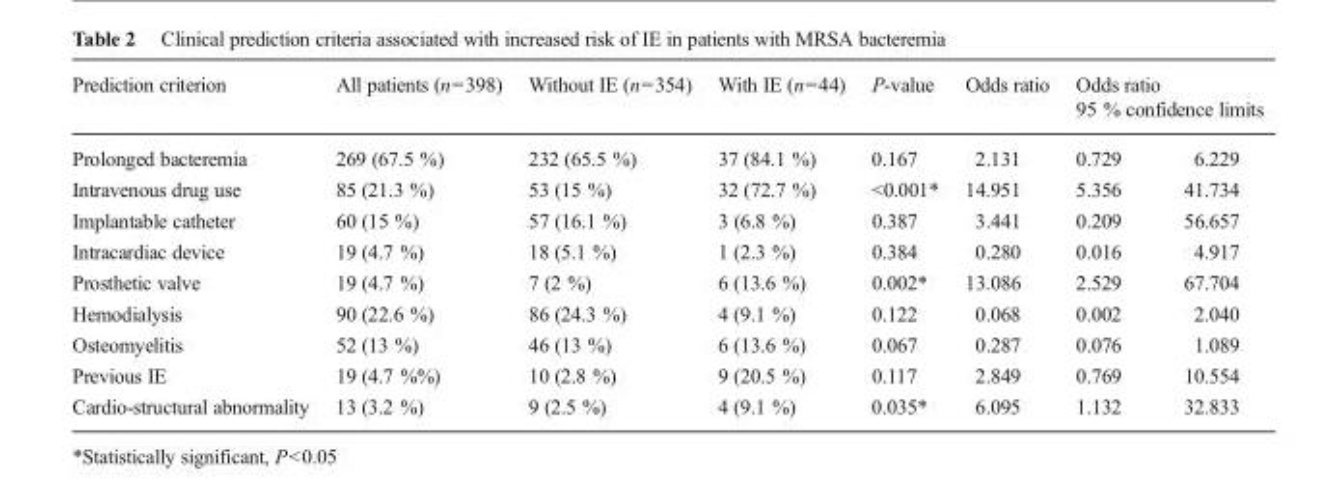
<table><thead><tr><td rowspan="2">Prediction criterion Prolonged bacteremia</td><td rowspan="2">All patients (n=398) 269 (67.5 %)</td><td rowspan="2">Without IE (n=354) 232 (65.5 %)</td><td rowspan="2">With IE (n=44) 37 (84.1 %)</td><td rowspan="2">P-value 0.167</td><td rowspan="2">Odds ratio 2.131</td><td colspan="2">Odds ratio 95 % confidence limits</td></tr><tr><td>0.729</td><td>6.229</td></tr></thead><tbody><tr><td>Intravenous drug use</td><td>85 (21.3 %)</td><td>53 (15 %)</td><td>32 (72.7 %)</td><td>&lt;0.001*</td><td>14.951</td><td>5.356</td><td>41.734</td></tr><tr><td>Implantable catheter</td><td>60 (15 %)</td><td>57 (16.1 %)</td><td>3 (6.8 %)</td><td>0.387</td><td>3.441</td><td>0.209</td><td>56.657</td></tr><tr><td>Intracardiac device</td><td>19 (4.7 %)</td><td>18 (5.1 %)</td><td>1 (2.3 %)</td><td>0.384</td><td>0.280</td><td>0.016</td><td>4.917</td></tr><tr><td>Prosthetic valve</td><td>19 (4.7 %)</td><td>7 (2 %)</td><td>6 (13.6 %)</td><td>0.002*</td><td>13.086</td><td>2.529</td><td>67.704</td></tr><tr><td>Hemodialysis</td><td>90 (22.6 %)</td><td>86 (24.3 %)</td><td>4 (9.1 %)</td><td>0.122</td><td>0.068</td><td>0.002</td><td>2.040</td></tr><tr><td>Osteomyelitis</td><td>52 (13 %)</td><td>46 (13 %)</td><td>6 (13.6 %)</td><td>0.067</td><td>0.287</td><td>0.076</td><td>1.089</td></tr><tr><td>Previous IE</td><td>19 (4.7 %%)</td><td>10 (2.8 %)</td><td>9 (20.5 %)</td><td>0.117</td><td>2.849</td><td>0.769</td><td>10.554</td></tr><tr><td>Cardio-structural abnormality</td><td>13 (3.2 %)</td><td>9 (2.5 %)</td><td>4 (9.1 %)</td><td>0.035*</td><td>6.095</td><td>1.132</td><td>32.833</td></tr></tbody></table>